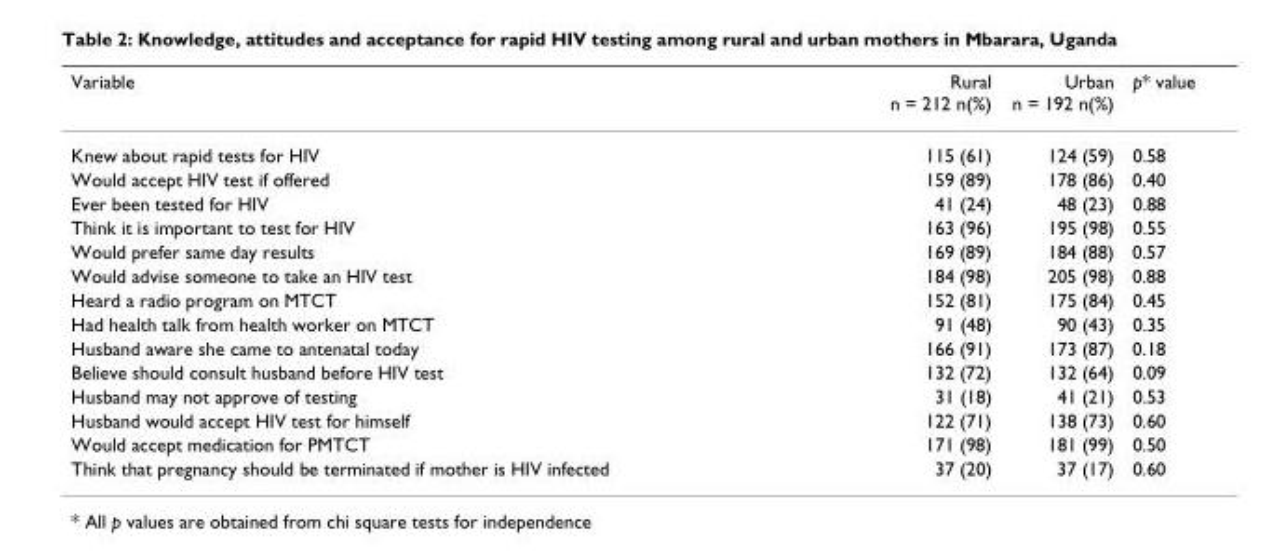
<table><thead><tr><td>Variable</td><td>Rural n = 212 n(%)</td><td>Urban n = 192 n(%)</td><td>p* value</td></tr></thead><tbody><tr><td>Knew about rapid tests for HIV</td><td>115 (61)</td><td>124 (59)</td><td>0.58</td></tr><tr><td>Would accept HIV test if offered</td><td>159 (89)</td><td>178 (86)</td><td>0.40</td></tr><tr><td>Ever been tested for HIV</td><td>41 (24)</td><td>48 (23)</td><td>0.88</td></tr><tr><td>Think it is important to test for HIV</td><td>163 (96)</td><td>195 (98)</td><td>0.55</td></tr><tr><td>Would prefer same day results</td><td>169 (89)</td><td>184 (88)</td><td>0.57</td></tr><tr><td>Would advise someone to take an HIV test</td><td>184 (98)</td><td>205 (98)</td><td>0.88</td></tr><tr><td>Heard a radio program on MTCT</td><td>152 (81)</td><td>175 (84)</td><td>0.45</td></tr><tr><td>Had health talk from health worker on MTCT</td><td>91 (48)</td><td>90 (43)</td><td>0.35</td></tr><tr><td>Husband aware she came to antenatal today</td><td>166 (91)</td><td>173 (87)</td><td>0.18</td></tr><tr><td>Believe should consult husband before HIV test</td><td>132 (72)</td><td>132 (64)</td><td>0.09</td></tr><tr><td>Husband may not approve of testing</td><td>31 (18)</td><td>41 (21)</td><td>0.53</td></tr><tr><td>Husband would accept HIV test for himself</td><td>122 (71)</td><td>138 (73)</td><td>0.60</td></tr><tr><td>Would accept medication for PMTCT</td><td>171 (98)</td><td>181 (99)</td><td>0.50</td></tr><tr><td>Think that pregnancy should be terminated if mother is HIV infected</td><td>37 (20)</td><td>37 (17)</td><td>0.60</td></tr></tbody></table>